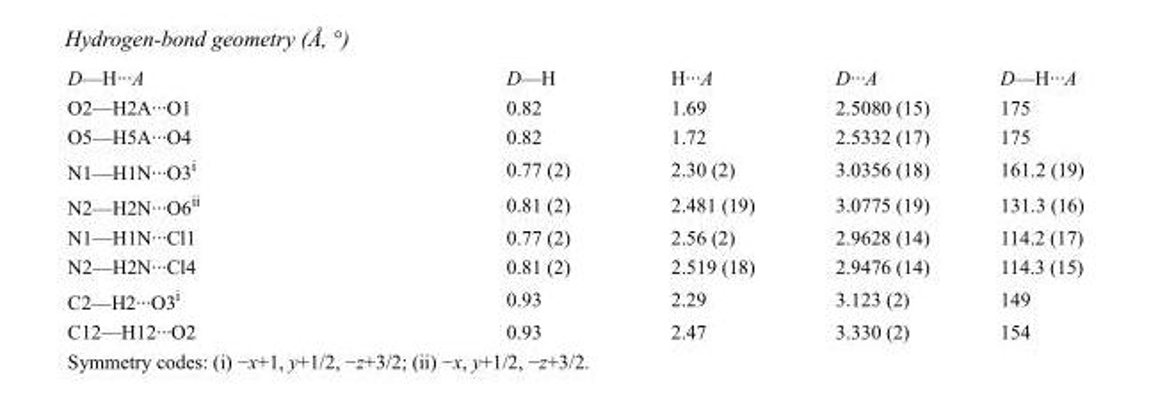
<table><tbody><tr><td>D—H···A</td><td>D—H</td><td>H···A</td><td>D···A</td><td>D—H···A</td></tr><tr><td>O2—H2A···O1</td><td>0.82</td><td>1.69</td><td>2.5080 (15)</td><td>175</td></tr><tr><td>O5—H5A···O4</td><td>0.82</td><td>1.72</td><td>2.5332 (17)</td><td>175</td></tr><tr><td>N1—H1N···O3<sup>i</sup></td><td>0.77 (2)</td><td>2.30 (2)</td><td>3.0356 (18)</td><td>161.2 (19)</td></tr><tr><td>N2—H2N···O6<sup>ii</sup></td><td>0.81 (2)</td><td>2.481 (19)</td><td>3.0775 (19)</td><td>131.3 (16)</td></tr><tr><td>N1—H1N···Cl1</td><td>0.77 (2)</td><td>2.56 (2)</td><td>2.9628 (14)</td><td>114.2 (17)</td></tr><tr><td>N2—H2N···Cl4</td><td>0.81 (2)</td><td>2.519 (18)</td><td>2.9476 (14)</td><td>114.3 (15)</td></tr><tr><td>C2—H2···O3<sup>i</sup></td><td>0.93</td><td>2.29</td><td>3.123 (2)</td><td>149</td></tr><tr><td>C12—H12···O2</td><td>0.93</td><td>2.47</td><td>3.330 (2)</td><td>154</td></tr></tbody></table>